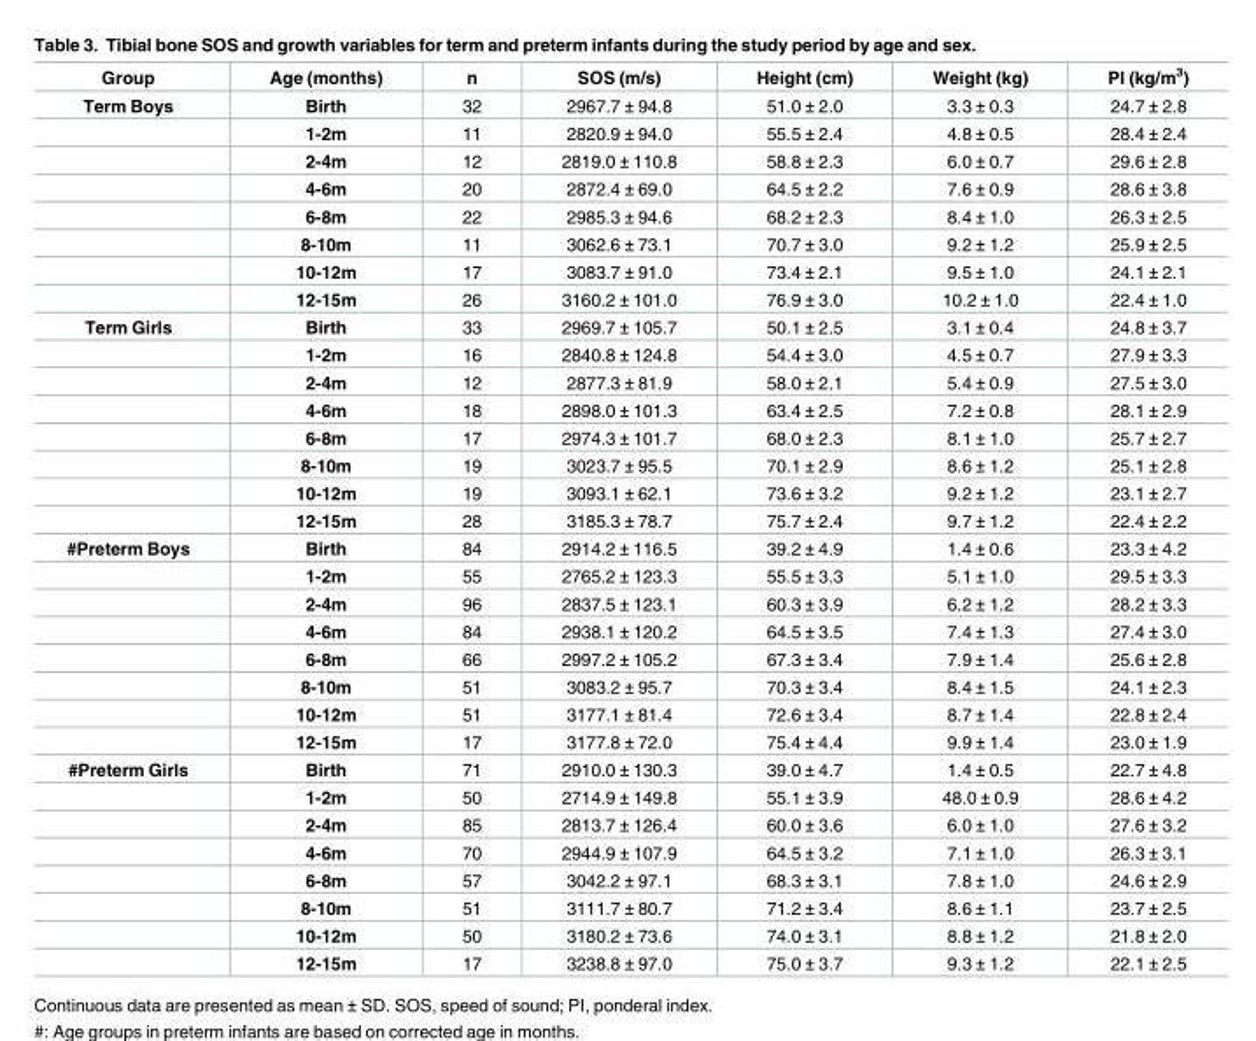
<table><thead><tr><td>Group</td><td>Age (months)</td><td>n</td><td>SOS (m/s)</td><td>Height (cm)</td><td>Weight (kg)</td><td>PI (kg/m<sup>3</sup>)</td></tr></thead><tbody><tr><td rowspan="8">Term Boys</td><td>Birth</td><td>32</td><td>2967.7 ± 94.8</td><td>51.0 ± 2.0</td><td>3.3 ± 0.3</td><td>24.7 ± 2.8</td></tr><tr><td>1-2m</td><td>11</td><td>2820.9 ± 94.0</td><td>55.5 ± 2.4</td><td>4.8 ± 0.5</td><td>28.4 ± 2.4</td></tr><tr><td>2-4m</td><td>12</td><td>2819.0 ± 110.8</td><td>58.8 ± 2.3</td><td>6.0 ± 0.7</td><td>29.6 ± 2.8</td></tr><tr><td>4-6m</td><td>20</td><td>2872.4 ± 69.0</td><td>64.5 ± 2.2</td><td>7.6 ± 0.9</td><td>28.6 ± 3.8</td></tr><tr><td>6-8m</td><td>22</td><td>2985.3 ± 94.6</td><td>68.2 ± 2.3</td><td>8.4 ± 1.0</td><td>26.3 ± 2.5</td></tr><tr><td>8-10m</td><td>11</td><td>3062.6 ± 73.1</td><td>70.7 ± 3.0</td><td>9.2 ± 1.2</td><td>25.9 ± 2.5</td></tr><tr><td>10-12m</td><td>17</td><td>3083.7 ± 91.0</td><td>73.4 ± 2.1</td><td>9.5 ± 1.0</td><td>24.1 ± 2.1</td></tr><tr><td>12-15m</td><td>26</td><td>3160.2 ± 101.0</td><td>76.9 ± 3.0</td><td>10.2 ± 1.0</td><td>22.4 ± 1.0</td></tr><tr><td rowspan="8">Term Girls</td><td>Birth</td><td>33</td><td>2969.7 ± 105.7</td><td>50.1 ± 2.5</td><td>3.1 ± 0.4</td><td>24.8 ± 3.7</td></tr><tr><td>1-2m</td><td>16</td><td>2840.8 ± 124.8</td><td>54.4 ± 3.0</td><td>4.5 ± 0.7</td><td>27.9 ± 3.3</td></tr><tr><td>2-4m</td><td>12</td><td>2877.3 ± 81.9</td><td>58.0 ± 2.1</td><td>5.4 ± 0.9</td><td>27.5 ± 3.0</td></tr><tr><td>4-6m</td><td>18</td><td>2898.0 ± 101.3</td><td>63.4 ± 2.5</td><td>7.2 ± 0.8</td><td>28.1 ± 2.9</td></tr><tr><td>6-8m</td><td>17</td><td>2974.3 ± 101.7</td><td>68.0 ± 2.3</td><td>8.1 ± 1.0</td><td>25.7 ± 2.7</td></tr><tr><td>8-10m</td><td>19</td><td>3023.7 ± 95.5</td><td>70.1 ± 2.9</td><td>8.6 ± 1.2</td><td>25.1 ± 2.8</td></tr><tr><td>10-12m</td><td>19</td><td>3093.1 ± 62.1</td><td>73.6 ± 3.2</td><td>9.2 ± 1.2</td><td>23.1 ± 2.7</td></tr><tr><td>12-15m</td><td>28</td><td>3185.3 ± 78.7</td><td>75.7 ± 2.4</td><td>9.7 ± 1.2</td><td>22.4 ± 2.2</td></tr><tr><td rowspan="8">#Preterm Boys</td><td>Birth</td><td>84</td><td>2914.2 ± 116.5</td><td>39.2 ± 4.9</td><td>1.4 ± 0.6</td><td>23.3 ± 4.2</td></tr><tr><td>1-2m</td><td>55</td><td>2765.2 ± 123.3</td><td>55.5 ± 3.3</td><td>5.1 ± 1.0</td><td>29.5 ± 3.3</td></tr><tr><td>2-4m</td><td>96</td><td>2837.5 ± 123.1</td><td>60.3 ± 3.9</td><td>6.2 ± 1.2</td><td>28.2 ± 3.3</td></tr><tr><td>4-6m</td><td>84</td><td>2938.1 ± 120.2</td><td>64.5 ± 3.5</td><td>7.4 ± 1.3</td><td>27.4 ± 3.0</td></tr><tr><td>6-8m</td><td>66</td><td>2997.2 ± 105.2</td><td>67.3 ± 3.4</td><td>7.9 ± 1.4</td><td>25.6 ± 2.8</td></tr><tr><td>8-10m</td><td>51</td><td>3083.2 ± 95.7</td><td>70.3 ± 3.4</td><td>8.4 ± 1.5</td><td>24.1 ± 2.3</td></tr><tr><td>10-12m</td><td>51</td><td>3177.1 ± 81.4</td><td>72.6 ± 3.4</td><td>8.7 ± 1.4</td><td>22.8 ± 2.4</td></tr><tr><td>12-15m</td><td>17</td><td>3177.8 ± 72.0</td><td>75.4 ± 4.4</td><td>9.9 ± 1.4</td><td>23.0 ± 1.9</td></tr><tr><td rowspan="8">#Preterm Girls</td><td>Birth</td><td>71</td><td>2910.0 ± 130.3</td><td>39.0 ± 4.7</td><td>1.4 ± 0.5</td><td>22.7 ± 4.8</td></tr><tr><td>1-2m</td><td>50</td><td>2714.9 ± 149.8</td><td>55.1 ± 3.9</td><td>48.0 ± 0.9</td><td>28.6 ± 4.2</td></tr><tr><td>2-4m</td><td>85</td><td>2813.7 ± 126.4</td><td>60.0 ± 3.6</td><td>6.0 ± 1.0</td><td>27.6 ± 3.2</td></tr><tr><td>4-6m</td><td>70</td><td>2944.9 ± 107.9</td><td>64.5 ± 3.2</td><td>7.1 ± 1.0</td><td>26.3 ± 3.1</td></tr><tr><td>6-8m</td><td>57</td><td>3042.2 ± 97.1</td><td>68.3 ± 3.1</td><td>7.8 ± 1.0</td><td>24.6 ± 2.9</td></tr><tr><td>8-10m</td><td>51</td><td>3111.7 ± 80.7</td><td>71.2 ± 3.4</td><td>8.6 ± 1.1</td><td>23.7 ± 2.5</td></tr><tr><td>10-12m</td><td>50</td><td>3180.2 ± 73.6</td><td>74.0 ± 3.1</td><td>8.8 ± 1.2</td><td>21.8 ± 2.0</td></tr><tr><td>12-15m</td><td>17</td><td>3238.8 ± 97.0</td><td>75.0 ± 3.7</td><td>9.3 ± 1.2</td><td>22.1 ± 2.5</td></tr></tbody></table>